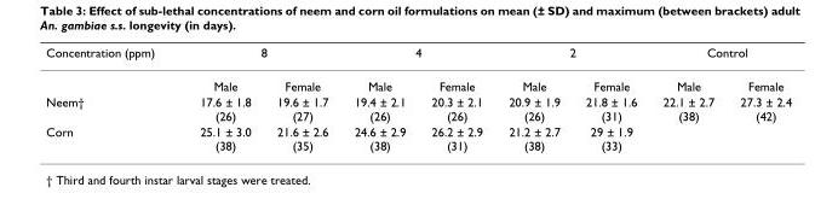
<table><thead><tr><td rowspan="2">Concentration (ppm)</td><td colspan="2">8</td><td colspan="2">4</td><td colspan="2">2</td><td colspan="2">Control</td></tr><tr><td>Male</td><td>Female</td><td>Male</td><td>Female</td><td>Male</td><td>Female</td><td>Male</td><td>Female</td></tr></thead><tbody><tr><td>Neem†</td><td>17.6 ± 1.8 (26)</td><td>19.6 ± 1.7 (27)</td><td>19.4 ± 2.1 (26)</td><td>20.3 ± 2.1 (26)</td><td>20.9 ± 1.9 (26)</td><td>21.8 ± 1.6 (31)</td><td>22.1 ± 2.7 (38)</td><td>27.3 ± 2.4 (42)</td></tr><tr><td>Corn</td><td>25.1 ± 3.0 (38)</td><td>21.6 ± 2.6 (35)</td><td>24.6 ± 2.9 (38)</td><td>26.2 ± 2.9 (31)</td><td>21.2 ± 2.7 (38)</td><td>29 ± 1.9 (33)</td><td></td><td></td></tr></tbody></table>